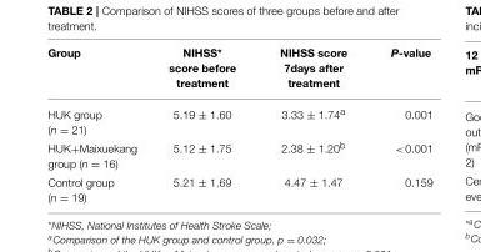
<table><thead><tr><td>Group</td><td>NIHSS* score before treatment</td><td>NIHSS score 7days after treatment</td><td>P-value</td></tr></thead><tbody><tr><td>HUK group (n = 21)</td><td>5.19 ± 1.60</td><td>3.33 ± 1.74<sup>a</sup></td><td>0.001</td></tr><tr><td>HUK+Maixuekang group (n = 16)</td><td>5.12 ± 1.75</td><td>2.38 ± 1.20<sup>b</sup></td><td>&lt;0.001</td></tr><tr><td>Control group (n = 19)</td><td>5.21 ± 1.69</td><td>4.47 ± 1.47</td><td>0.159</td></tr></tbody></table>